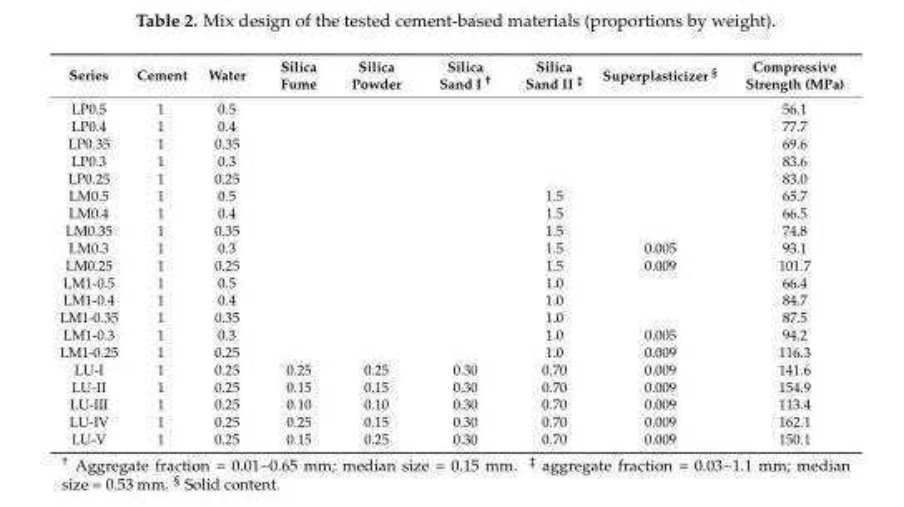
<table><thead><tr><td>Series</td><td>Cement</td><td>Water</td><td>Silica Fume</td><td>Silica Powder</td><td>Silica Sand I <sup>†</sup></td><td>Silica Sand II <sup>‡</sup></td><td>Superplasticizer <sup>§</sup></td><td>Compressive Strength (MPa)</td></tr></thead><tbody><tr><td>LP0.5</td><td>1</td><td>0.5</td><td></td><td></td><td></td><td></td><td></td><td>56.1</td></tr><tr><td>LP0.4</td><td>1</td><td>0.4</td><td></td><td></td><td></td><td></td><td></td><td>77.7</td></tr><tr><td>LP0.35</td><td>1</td><td>0.35</td><td></td><td></td><td></td><td></td><td></td><td>69.6</td></tr><tr><td>LP0.3</td><td>1</td><td>0.3</td><td></td><td></td><td></td><td></td><td></td><td>83.6</td></tr><tr><td>LP0.25</td><td>1</td><td>0.25</td><td></td><td></td><td></td><td></td><td></td><td>83.0</td></tr><tr><td>LM0.5</td><td>1</td><td>0.5</td><td></td><td></td><td></td><td>1.5</td><td></td><td>65.7</td></tr><tr><td>LM0.4</td><td>1</td><td>0.4</td><td></td><td></td><td></td><td>1.5</td><td></td><td>66.5</td></tr><tr><td>LM0.35</td><td>1</td><td>0.35</td><td></td><td></td><td></td><td>1.5</td><td></td><td>74.8</td></tr><tr><td>LM0.3</td><td>1</td><td>0.3</td><td></td><td></td><td></td><td>1.5</td><td>0.005</td><td>93.1</td></tr><tr><td>LM0.25</td><td>1</td><td>0.25</td><td></td><td></td><td></td><td>1.5</td><td>0.009</td><td>101.7</td></tr><tr><td>LM1-0.5</td><td>1</td><td>0.5</td><td></td><td></td><td></td><td>1.0</td><td></td><td>66.4</td></tr><tr><td>LM1-0.4</td><td>1</td><td>0.4</td><td></td><td></td><td></td><td>1.0</td><td></td><td>84.7</td></tr><tr><td>LM1-0.35</td><td>1</td><td>0.35</td><td></td><td></td><td></td><td>1.0</td><td></td><td>87.5</td></tr><tr><td>LM1-0.3</td><td>1</td><td>0.3</td><td></td><td></td><td></td><td>1.0</td><td>0.005</td><td>94.2</td></tr><tr><td>LM1-0.25</td><td>1</td><td>0.25</td><td></td><td></td><td></td><td>1.0</td><td>0.009</td><td>116.3</td></tr><tr><td>LU-I</td><td>1</td><td>0.25</td><td>0.25</td><td>0.25</td><td>0.30</td><td>0.70</td><td>0.009</td><td>141.6</td></tr><tr><td>LU-II</td><td>1</td><td>0.25</td><td>0.15</td><td>0.15</td><td>0.30</td><td>0.70</td><td>0.009</td><td>154.9</td></tr><tr><td>LU-III</td><td>1</td><td>0.25</td><td>0.10</td><td>0.10</td><td>0.30</td><td>0.70</td><td>0.009</td><td>113.4</td></tr><tr><td>LU-IV</td><td>1</td><td>0.25</td><td>0.25</td><td>0.15</td><td>0.30</td><td>0.70</td><td>0.009</td><td>162.1</td></tr><tr><td>LU-V</td><td>1</td><td>0.25</td><td>0.15</td><td>0.25</td><td>0.30</td><td>0.70</td><td>0.009</td><td>150.1</td></tr></tbody></table>